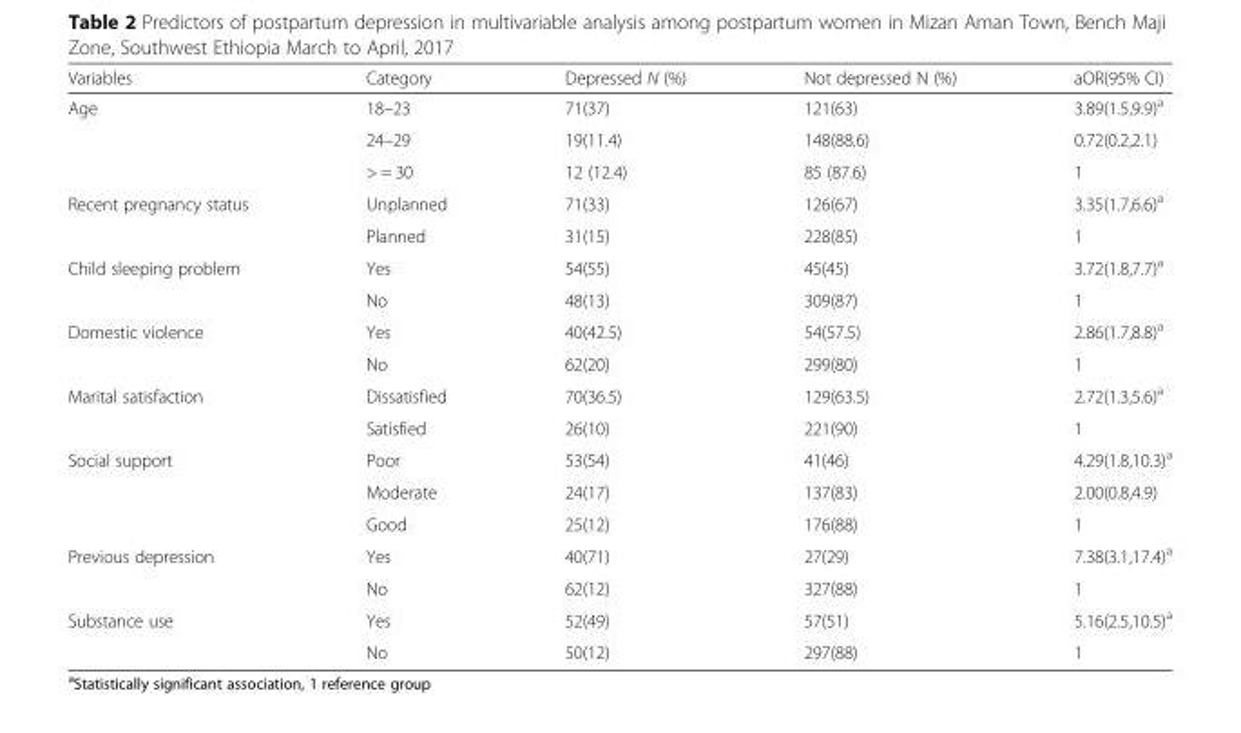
<table><thead><tr><td>Variables</td><td>Category</td><td>Depressed N (%)</td><td>Not depressed N (%)</td><td>aOR(95% CI)</td></tr></thead><tbody><tr><td rowspan="3">Age</td><td>18–23</td><td>71(37)</td><td>121(63)</td><td>3.89(1.5,9.9)<sup>a</sup></td></tr><tr><td>24–29</td><td>19(11.4)</td><td>148(88.6)</td><td>0.72(0.2,2.1)</td></tr><tr><td>&gt; = 30</td><td>12 (12.4)</td><td>85 (87.6)</td><td>1</td></tr><tr><td rowspan="2">Recent pregnancy status</td><td>Unplanned</td><td>71(33)</td><td>126(67)</td><td>3.35(1.7,6.6)<sup>a</sup></td></tr><tr><td>Planned</td><td>31(15)</td><td>228(85)</td><td>1</td></tr><tr><td rowspan="2">Child sleeping problem</td><td>Yes</td><td>54(55)</td><td>45(45)</td><td>3.72(1.8,7.7)<sup>a</sup></td></tr><tr><td>No</td><td>48(13)</td><td>309(87)</td><td>1</td></tr><tr><td rowspan="2">Domestic violence</td><td>Yes</td><td>40(42.5)</td><td>54(57.5)</td><td>2.86(1.7,8.8)<sup>a</sup></td></tr><tr><td>No</td><td>62(20)</td><td>299(80)</td><td>1</td></tr><tr><td rowspan="2">Marital satisfaction</td><td>Dissatisfied</td><td>70(36.5)</td><td>129(63.5)</td><td>2.72(1.3,5.6)<sup>a</sup></td></tr><tr><td>Satisfied</td><td>26(10)</td><td>221(90)</td><td>1</td></tr><tr><td rowspan="3">Social support</td><td>Poor</td><td>53(54)</td><td>41(46)</td><td>4.29(1.8,10.3)<sup>a</sup></td></tr><tr><td>Moderate</td><td>24(17)</td><td>137(83)</td><td>2.00(0.8,4.9)</td></tr><tr><td>Good</td><td>25(12)</td><td>176(88)</td><td>1</td></tr><tr><td rowspan="2">Previous depression</td><td>Yes</td><td>40(71)</td><td>27(29)</td><td>7.38(3.1,17.4)<sup>a</sup></td></tr><tr><td>No</td><td>62(12)</td><td>327(88)</td><td>1</td></tr><tr><td rowspan="2">Substance use</td><td>Yes</td><td>52(49)</td><td>57(51)</td><td>5.16(2.5,10.5)<sup>a</sup></td></tr><tr><td>No</td><td>50(12)</td><td>297(88)</td><td>1</td></tr></tbody></table>